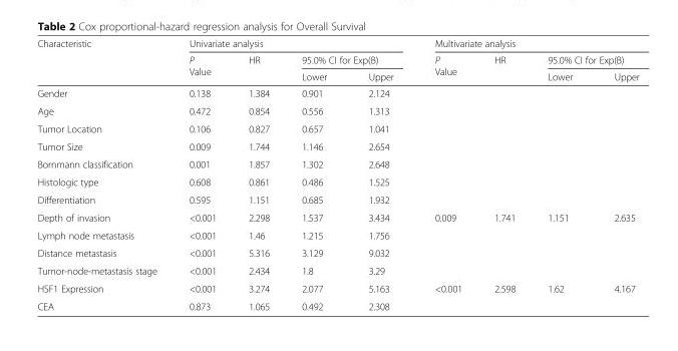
<table><thead><tr><td rowspan="3">Characteristic</td><td colspan="4">Univariate analysis</td><td colspan="4">Multivariate analysis</td></tr><tr><td rowspan="2">P Value</td><td rowspan="2">HR</td><td colspan="2">95.0% CI for Exp(B)</td><td rowspan="2">P Value</td><td rowspan="2">HR</td><td colspan="2">95.0% CI for Exp(B)</td></tr><tr><td>Lower</td><td>Upper</td><td>Lower</td><td>Upper</td></tr></thead><tbody><tr><td>Gender</td><td>0.138</td><td>1.384</td><td>0.901</td><td>2.124</td><td></td><td></td><td></td><td></td></tr><tr><td>Age</td><td>0.472</td><td>0.854</td><td>0.556</td><td>1.313</td><td></td><td></td><td></td><td></td></tr><tr><td>Tumor Location</td><td>0.106</td><td>0.827</td><td>0.657</td><td>1.041</td><td></td><td></td><td></td><td></td></tr><tr><td>Tumor Size</td><td>0.009</td><td>1.744</td><td>1.146</td><td>2.654</td><td></td><td></td><td></td><td></td></tr><tr><td>Bornmann classification</td><td>0.001</td><td>1.857</td><td>1.302</td><td>2.648</td><td></td><td></td><td></td><td></td></tr><tr><td>Histologic type</td><td>0.608</td><td>0.861</td><td>0.486</td><td>1.525</td><td></td><td></td><td></td><td></td></tr><tr><td>Differentiation</td><td>0.595</td><td>1.151</td><td>0.685</td><td>1.932</td><td></td><td></td><td></td><td></td></tr><tr><td>Depth of invasion</td><td>&lt;0.001</td><td>2.298</td><td>1.537</td><td>3.434</td><td>0.009</td><td>1.741</td><td>1.151</td><td>2.635</td></tr><tr><td>Lymph node metastasis</td><td>&lt;0.001</td><td>1.46</td><td>1.215</td><td>1.756</td><td></td><td></td><td></td><td></td></tr><tr><td>Distance metastasis</td><td>&lt;0.001</td><td>5.316</td><td>3.129</td><td>9.032</td><td></td><td></td><td></td><td></td></tr><tr><td>Tumor-node-metastasis stage</td><td>&lt;0.001</td><td>2.434</td><td>1.8</td><td>3.29</td><td></td><td></td><td></td><td></td></tr><tr><td>HSF1 Expression</td><td>&lt;0.001</td><td>3.274</td><td>2.077</td><td>5.163</td><td>&lt;0.001</td><td>2.598</td><td>1.62</td><td>4.167</td></tr><tr><td>CEA</td><td>0.873</td><td>1.065</td><td>0.492</td><td>2.308</td><td></td><td></td><td></td><td></td></tr></tbody></table>